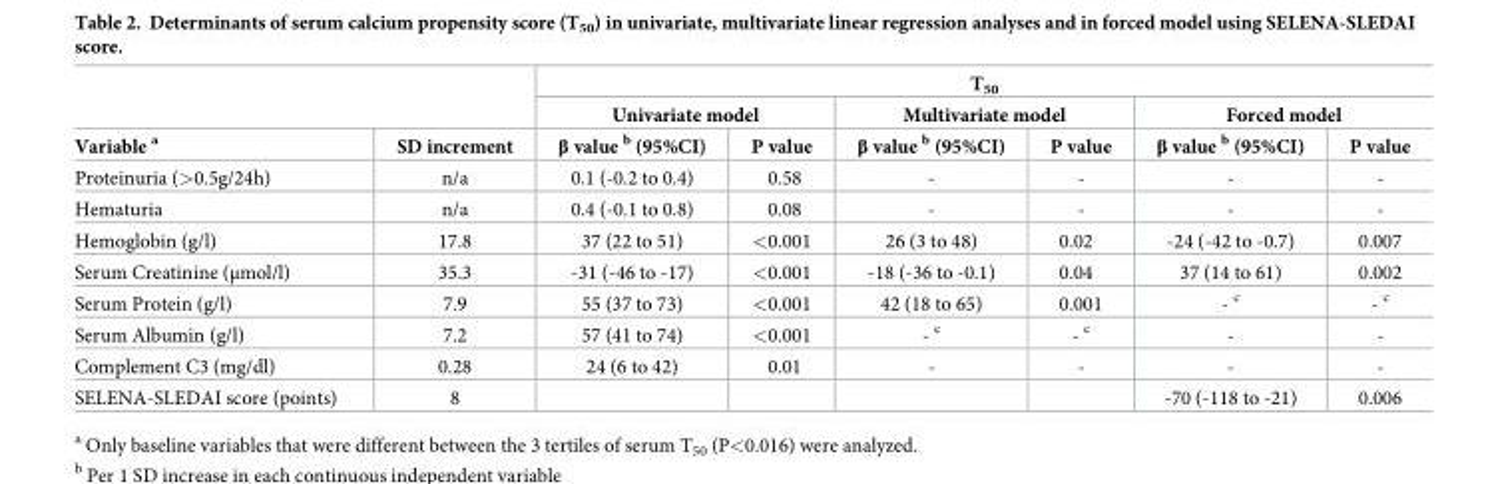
<table><thead><tr><td rowspan="3">Variable <sup>a</sup></td><td rowspan="3">SD increment</td><td colspan="6">T<sub>50</sub></td></tr><tr><td colspan="2">Univariate model</td><td colspan="2">Multivariate model</td><td colspan="2">Forced model</td></tr><tr><td>β value <sup>b</sup> (95%CI)</td><td>P value</td><td>β value <sup>b</sup> (95%CI)</td><td>P value</td><td>β value <sup>b</sup> (95%CI)</td><td>P value</td></tr></thead><tbody><tr><td>Proteinuria (&gt;0.5g/24h)</td><td>n/a</td><td>0.1 (-0.2 to 0.4)</td><td>0.58</td><td>-</td><td>-</td><td>-</td><td>-</td></tr><tr><td>Hematuria</td><td>n/a</td><td>0.4 (-0.1 to 0.8)</td><td>0.08</td><td>-</td><td>-</td><td>-</td><td>-</td></tr><tr><td>Hemoglobin (g/l)</td><td>17.8</td><td>37 (22 to 51)</td><td>&lt;0.001</td><td>26 (3 to 48)</td><td>0.02</td><td>-24 (-42 to -0.7)</td><td>0.007</td></tr><tr><td>Serum Creatinine (μmol/l)</td><td>35.3</td><td>-31 (-46 to -17)</td><td>&lt;0.001</td><td>-18 (-36 to -0.1)</td><td>0.04</td><td>37 (14 to 61)</td><td>0.002</td></tr><tr><td>Serum Protein (g/l)</td><td>7.9</td><td>55 (37 to 73)</td><td>&lt;0.001</td><td>42 (18 to 65)</td><td>0.001</td><td>- <sup>c</sup></td><td>- <sup>c</sup></td></tr><tr><td>Serum Albumin (g/l)</td><td>7.2</td><td>57 (41 to 74)</td><td>&lt;0.001</td><td>- <sup>c</sup></td><td>- <sup>c</sup></td><td>-</td><td>-</td></tr><tr><td>Complement C3 (mg/dl)</td><td>0.28</td><td>24 (6 to 42)</td><td>0.01</td><td>-</td><td>-</td><td>-</td><td>-</td></tr><tr><td>SELENA-SLEDAI score (points)</td><td>8</td><td></td><td></td><td></td><td></td><td>-70 (-118 to -21)</td><td>0.006</td></tr></tbody></table>